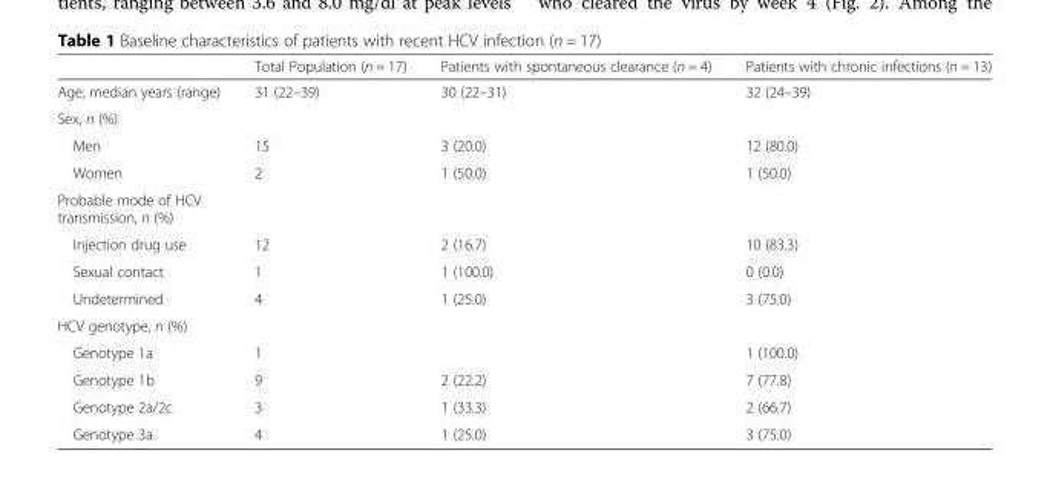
<table><thead><tr><td></td><td>Total Population (n = 17)</td><td>Patients with spontaneous clearance (n = 4)</td><td>Patients with chronic infections (n = 13)</td></tr></thead><tbody><tr><td>Age, median years (range)</td><td>31 (22–39)</td><td>30 (22–31)</td><td>32 (24–39)</td></tr><tr><td colspan="4">Sex, n (%)</td></tr><tr><td>Men</td><td>15</td><td>3 (20.0)</td><td>12 (80.0)</td></tr><tr><td>Women</td><td>2</td><td>1 (50.0)</td><td>1 (50.0)</td></tr><tr><td colspan="4">Probable mode of HCV transmission, n (%)</td></tr><tr><td>Injection drug use</td><td>12</td><td>2 (16.7)</td><td>10 (83.3)</td></tr><tr><td>Sexual contact</td><td>1</td><td>1 (100.0)</td><td>0 (0.0)</td></tr><tr><td>Undetermined</td><td>4</td><td>1 (25.0)</td><td>3 (75.0)</td></tr><tr><td colspan="4">HCV genotype, n (%)</td></tr><tr><td>Genotype 1a</td><td>1</td><td></td><td>1 (100.0)</td></tr><tr><td>Genotype 1b</td><td>9</td><td>2 (22.2)</td><td>7 (77.8)</td></tr><tr><td>Genotype 2a/2c</td><td>3</td><td>1 (33.3)</td><td>2 (66.7)</td></tr><tr><td>Genotype 3a</td><td>4</td><td>1 (25.0)</td><td>3 (75.0)</td></tr></tbody></table>